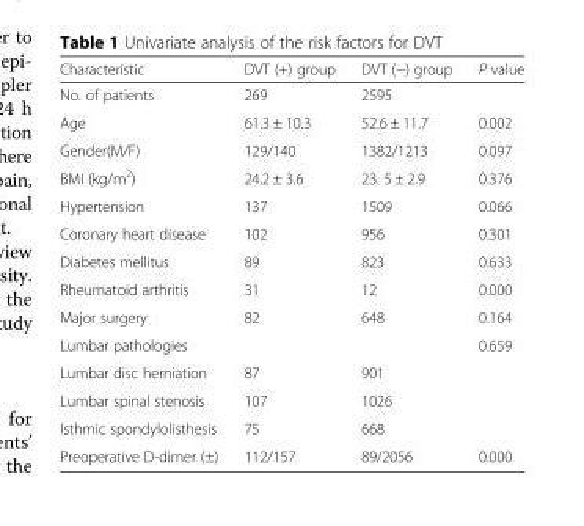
<table><thead><tr><td>Characteristic</td><td>DVT (+) group</td><td>DVT (−) group</td><td>P value</td></tr></thead><tbody><tr><td>No. of patients</td><td>269</td><td>2595</td><td></td></tr><tr><td>Age</td><td>61.3 ± 10.3</td><td>52.6 ± 11.7</td><td>0.002</td></tr><tr><td>Gender(M/F)</td><td>129/140</td><td>1382/1213</td><td>0.097</td></tr><tr><td>BMI (kg/m<sup>2</sup>)</td><td>24.2 ± 3.6</td><td>23. 5 ± 2.9</td><td>0.376</td></tr><tr><td>Hypertension</td><td>137</td><td>1509</td><td>0.066</td></tr><tr><td>Coronary heart disease</td><td>102</td><td>956</td><td>0.301</td></tr><tr><td>Diabetes mellitus</td><td>89</td><td>823</td><td>0.633</td></tr><tr><td>Rheumatoid arthritis</td><td>31</td><td>12</td><td>0.000</td></tr><tr><td>Major surgery</td><td>82</td><td>648</td><td>0.164</td></tr><tr><td colspan="3">Lumbar pathologies</td><td>0.659</td></tr><tr><td>Lumbar disc herniation</td><td>87</td><td>901</td><td></td></tr><tr><td>Lumbar spinal stenosis</td><td>107</td><td>1026</td><td></td></tr><tr><td>Isthmic spondylolisthesis</td><td>75</td><td>668</td><td></td></tr><tr><td>Preoperative D-dimer (±)</td><td>112/157</td><td>89/2056</td><td>0.000</td></tr></tbody></table>